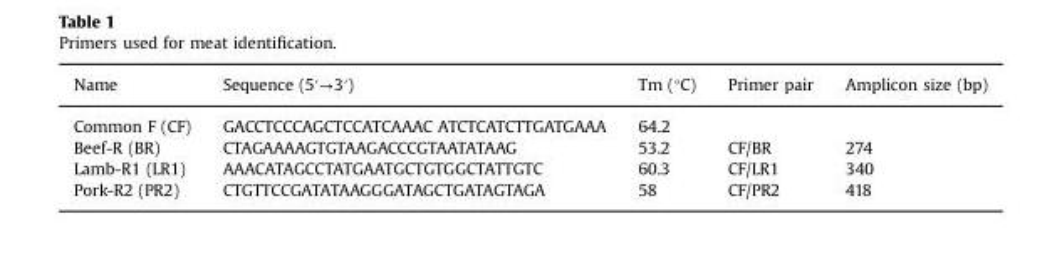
<table><thead><tr><td>Name</td><td>Sequence (5′→3′)</td><td>Tm (°C)</td><td>Primer pair</td><td>Amplicon size (bp)</td></tr></thead><tbody><tr><td>Common F (CF)</td><td>GACCTCCCAGCTCCATCAAAC ATCTCATCTTGATGAAA</td><td>64.2</td><td></td><td></td></tr><tr><td>Beef-R (BR)</td><td>CTAGAAAAGTGTAAGACCCGTAATATAAG</td><td>53.2</td><td>CF/BR</td><td>274</td></tr><tr><td>Lamb-R1 (LR1)</td><td>AAACATAGCCTATGAATGCTGTGGCTATTGTC</td><td>60.3</td><td>CF/LR1</td><td>340</td></tr><tr><td>Pork-R2 (PR2)</td><td>CTGTTCCGATATAAGGGATAGCTGATAGTAGA</td><td>58</td><td>CF/PR2</td><td>418</td></tr></tbody></table>